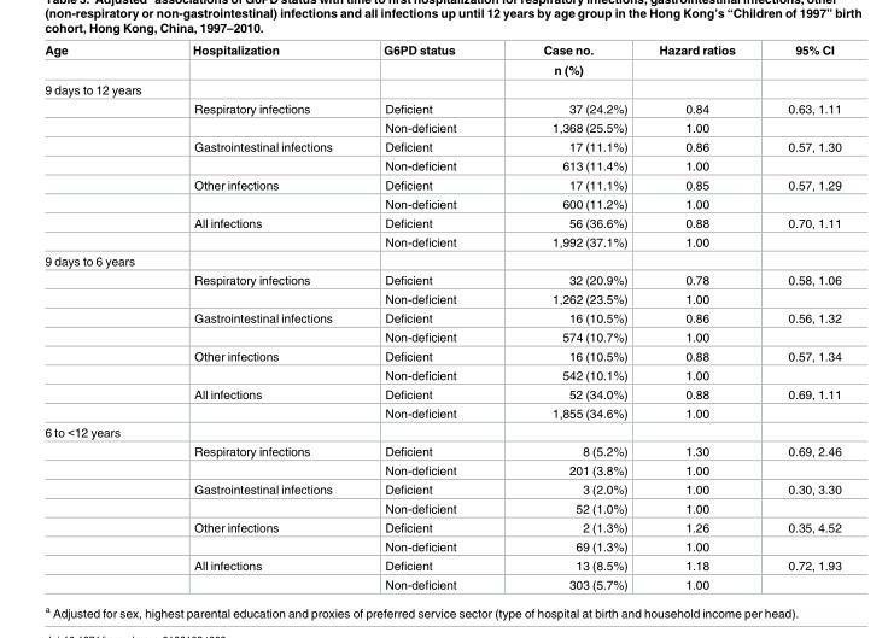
<table><thead><tr><td rowspan="2">Age</td><td rowspan="2">Hospitalization</td><td rowspan="2">G6PD status</td><td rowspan="2">Case no. n (%)</td><td rowspan="2">Hazard ratios</td><td rowspan="2">95% CI</td></tr><tr></tr></thead><tbody><tr><td colspan="6">9 days to 12 years</td></tr><tr><td></td><td>Respiratory infections</td><td>Deficient</td><td>37 (24.2%)</td><td>0.84</td><td>0.63, 1.11</td></tr><tr><td></td><td></td><td>Non-deficient</td><td>1,368 (25.5%)</td><td>1.00</td><td></td></tr><tr><td></td><td>Gastrointestinal infections</td><td>Deficient</td><td>17 (11.1%)</td><td>0.86</td><td>0.57, 1.30</td></tr><tr><td></td><td></td><td>Non-deficient</td><td>613 (11.4%)</td><td>1.00</td><td></td></tr><tr><td></td><td>Other infections</td><td>Deficient</td><td>17 (11.1%)</td><td>0.85</td><td>0.57, 1.29</td></tr><tr><td></td><td></td><td>Non-deficient</td><td>600 (11.2%)</td><td>1.00</td><td></td></tr><tr><td></td><td>All infections</td><td>Deficient</td><td>56 (36.6%)</td><td>0.88</td><td>0.70, 1.11</td></tr><tr><td></td><td></td><td>Non-deficient</td><td>1,992 (37.1%)</td><td>1.00</td><td></td></tr><tr><td colspan="6">9 days to 6 years</td></tr><tr><td></td><td>Respiratory infections</td><td>Deficient</td><td>32 (20.9%)</td><td>0.78</td><td>0.58, 1.06</td></tr><tr><td></td><td></td><td>Non-deficient</td><td>1,262 (23.5%)</td><td>1.00</td><td></td></tr><tr><td></td><td>Gastrointestinal infections</td><td>Deficient</td><td>16 (10.5%)</td><td>0.86</td><td>0.56, 1.32</td></tr><tr><td></td><td></td><td>Non-deficient</td><td>574 (10.7%)</td><td>1.00</td><td></td></tr><tr><td></td><td>Other infections</td><td>Deficient</td><td>16 (10.5%)</td><td>0.88</td><td>0.57, 1.34</td></tr><tr><td></td><td></td><td>Non-deficient</td><td>542 (10.1%)</td><td>1.00</td><td></td></tr><tr><td></td><td>All infections</td><td>Deficient</td><td>52 (34.0%)</td><td>0.88</td><td>0.69, 1.11</td></tr><tr><td></td><td></td><td>Non-deficient</td><td>1,855 (34.6%)</td><td>1.00</td><td></td></tr><tr><td colspan="6">6 to &lt;12 years</td></tr><tr><td></td><td>Respiratory infections</td><td>Deficient</td><td>8 (5.2%)</td><td>1.30</td><td>0.69, 2.46</td></tr><tr><td></td><td></td><td>Non-deficient</td><td>201 (3.8%)</td><td>1.00</td><td></td></tr><tr><td></td><td>Gastrointestinal infections</td><td>Deficient</td><td>3 (2.0%)</td><td>1.00</td><td>0.30, 3.30</td></tr><tr><td></td><td></td><td>Non-deficient</td><td>52 (1.0%)</td><td>1.00</td><td></td></tr><tr><td></td><td>Other infections</td><td>Deficient</td><td>2 (1.3%)</td><td>1.26</td><td>0.35, 4.52</td></tr><tr><td></td><td></td><td>Non-deficient</td><td>69 (1.3%)</td><td>1.00</td><td></td></tr><tr><td></td><td>All infections</td><td>Deficient</td><td>13 (8.5%)</td><td>1.18</td><td>0.72, 1.93</td></tr><tr><td></td><td></td><td>Non-deficient</td><td>303 (5.7%)</td><td>1.00</td><td></td></tr></tbody></table>